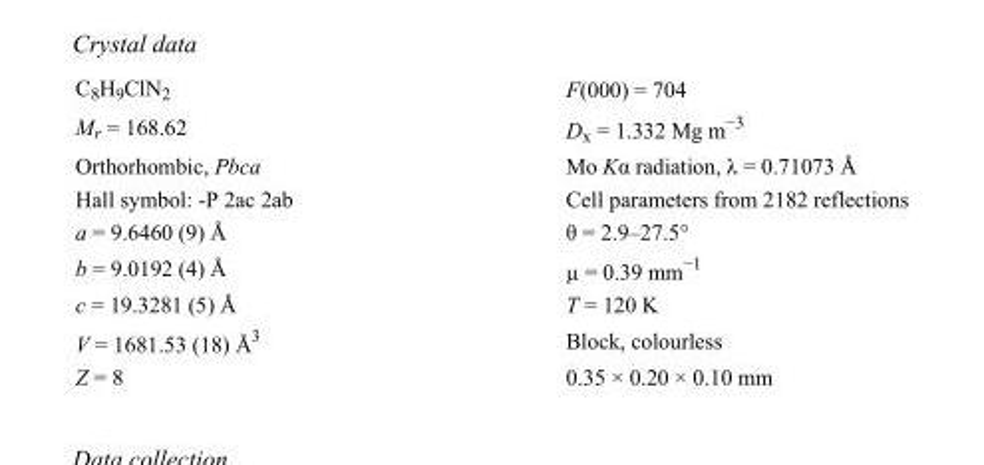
<table><tbody><tr><td>C<sub>8</sub>H<sub>9</sub>ClN<sub>2</sub></td><td>F(000) = 704</td></tr><tr><td>M<sub>r</sub> = 168.62</td><td>D<sub>x</sub> = 1.332 Mg m<sup>−3</sup></td></tr><tr><td>Orthorhombic, Pbca</td><td>Mo Kα radiation, λ = 0.71073 Å</td></tr><tr><td>Hall symbol: -P 2ac 2ab</td><td>Cell parameters from 2182 reflections</td></tr><tr><td>a = 9.6460 (9) Å</td><td>θ = 2.9–27.5°</td></tr><tr><td>b = 9.0192 (4) Å</td><td>µ = 0.39 mm<sup>−1</sup></td></tr><tr><td>c = 19.3281 (5) Å</td><td>T = 120 K</td></tr><tr><td>V = 1681.53 (18) Å<sup>3</sup></td><td>Block, colourless</td></tr><tr><td>Z = 8</td><td>0.35 × 0.20 × 0.10 mm</td></tr></tbody></table>